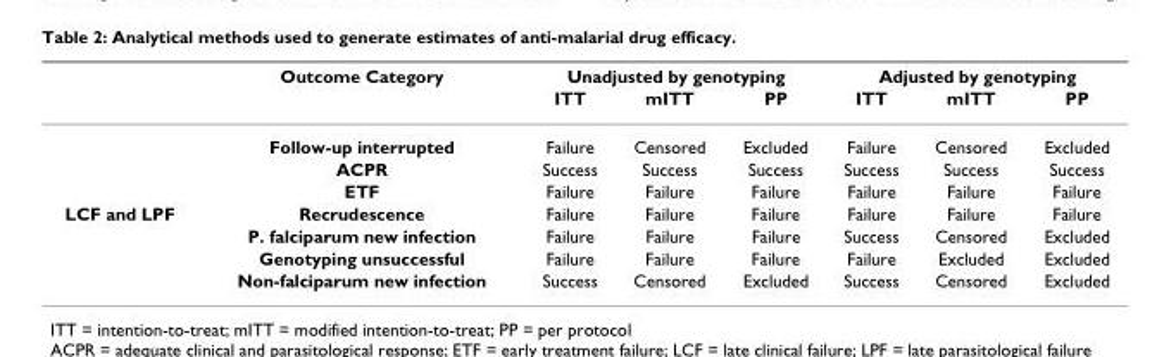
<table><thead><tr><td rowspan="2"></td><td rowspan="2">Outcome Category</td><td colspan="3">Unadjusted by genotyping</td><td colspan="3">Adjusted by genotyping</td></tr><tr><td>ITT</td><td>mITT</td><td>PP</td><td>ITT</td><td>mITT</td><td>PP</td></tr></thead><tbody><tr><td></td><td>Follow-up interrupted</td><td>Failure</td><td>Censored</td><td>Excluded</td><td>Failure</td><td>Censored</td><td>Excluded</td></tr><tr><td></td><td>ACPR</td><td>Success</td><td>Success</td><td>Success</td><td>Success</td><td>Success</td><td>Success</td></tr><tr><td></td><td>ETF</td><td>Failure</td><td>Failure</td><td>Failure</td><td>Failure</td><td>Failure</td><td>Failure</td></tr><tr><td rowspan="4">LCF and LPF</td><td>Recrudescence</td><td>Failure</td><td>Failure</td><td>Failure</td><td>Failure</td><td>Failure</td><td>Failure</td></tr><tr><td>P. falciparum new infection</td><td>Failure</td><td>Failure</td><td>Failure</td><td>Success</td><td>Censored</td><td>Excluded</td></tr><tr><td>Genotyping unsuccessful</td><td>Failure</td><td>Failure</td><td>Failure</td><td>Failure</td><td>Excluded</td><td>Excluded</td></tr><tr><td>Non-falciparum new infection</td><td>Success</td><td>Censored</td><td>Excluded</td><td>Success</td><td>Censored</td><td>Excluded</td></tr></tbody></table>